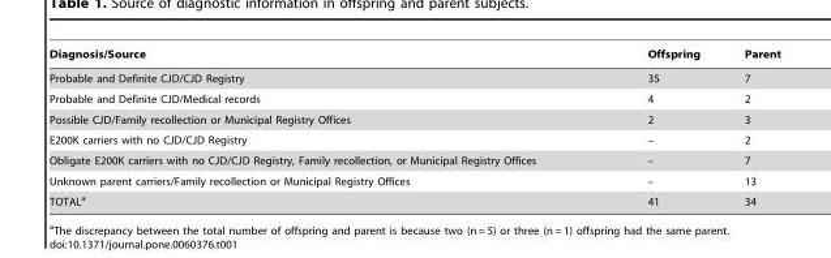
<table><thead><tr><td>Diagnosis/Source</td><td>Offspring</td><td>Parent</td></tr></thead><tbody><tr><td>Probable and Definite CJD/CJD Registry</td><td>35</td><td>7</td></tr><tr><td>Probable and Definite CJD/Medical records</td><td>4</td><td>2</td></tr><tr><td>Possible CJD/Family recollection or Municipal Registry Offices</td><td>2</td><td>3</td></tr><tr><td>E200K carriers with no CJD/CJD Registry</td><td>–</td><td>2</td></tr><tr><td>Obligate E200K carriers with no CJD/CJD Registry, Family recollection, or Municipal Registry Offices</td><td>–</td><td>7</td></tr><tr><td>Unknown parent carriers/Family recollection or Municipal Registry Offices</td><td>–</td><td>13</td></tr><tr><td>TOTAL<sup>a</sup></td><td>41</td><td>34</td></tr></tbody></table>